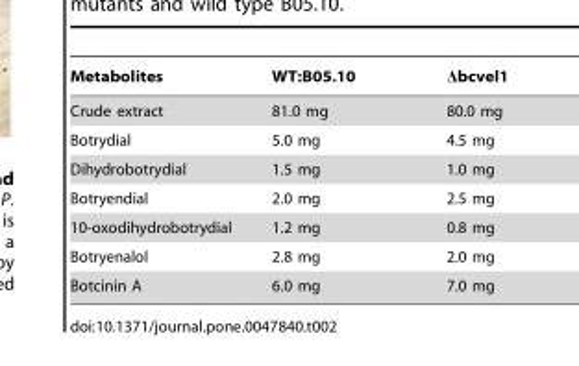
<table><thead><tr><td>Metabolites</td><td>WT:B05.10</td><td>Δbcvel1</td></tr></thead><tbody><tr><td>Crude extract</td><td>81.0 mg</td><td>80.0 mg</td></tr><tr><td>Botrydial</td><td>5.0 mg</td><td>4.5 mg</td></tr><tr><td>Dihydrobotrydial</td><td>1.5 mg</td><td>1.0 mg</td></tr><tr><td>Botryendial</td><td>2.0 mg</td><td>2.5 mg</td></tr><tr><td>10-oxodihydrobotrydial</td><td>1.2 mg</td><td>0.8 mg</td></tr><tr><td>Botryenalol</td><td>2.8 mg</td><td>2.0 mg</td></tr><tr><td>Botcinin A</td><td>6.0 mg</td><td>7.0 mg</td></tr></tbody></table>